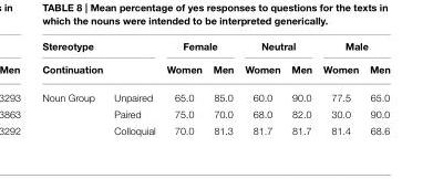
<table><thead><tr><td rowspan="2" colspan="2">Stereotype Continuation</td><td colspan="2">Female</td><td colspan="2">Neutral</td><td colspan="2">Male</td></tr><tr><td rowspan="2">Women 65.0</td><td rowspan="2">Men 85.0</td><td rowspan="2">Women 60.0</td><td rowspan="2">Men 90.0</td><td rowspan="2">Women 77.5</td><td rowspan="2">Men 65.0</td></tr><tr><td>Noun Group</td><td>Unpaired</td></tr></thead><tbody><tr><td></td><td>Paired</td><td>75.0</td><td>70.0</td><td>68.0</td><td>82.0</td><td>30.0</td><td>90.0</td></tr><tr><td></td><td>Colloquial</td><td>70.0</td><td>81.3</td><td>81.7</td><td>81.7</td><td>81.4</td><td>68.6</td></tr></tbody></table>